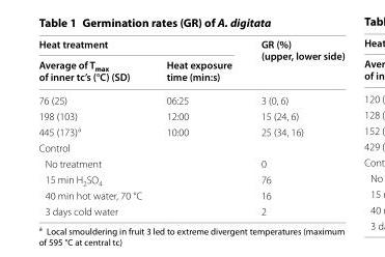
<table><thead><tr><td colspan="2">Heat treatment</td><td rowspan="2">GR (%) (upper, lower side)</td></tr><tr><td>Average of T<sub>max</sub> of inner tc’s (°C) (SD)</td><td>Heat exposure time (min:s)</td></tr></thead><tbody><tr><td>76 (25)</td><td>06:25</td><td>3 (0, 6)</td></tr><tr><td>198 (103)</td><td>12:00</td><td>15 (24, 6)</td></tr><tr><td>445 (173)<sup>a</sup></td><td>10:00</td><td>25 (34, 16)</td></tr><tr><td colspan="3">Control</td></tr><tr><td colspan="2">No treatment</td><td>0</td></tr><tr><td colspan="2">15 min H<sub>2</sub>SO<sub>4</sub></td><td>76</td></tr><tr><td colspan="2">40 min hot water, 70 °C</td><td>16</td></tr><tr><td colspan="2">3 days cold water</td><td>2</td></tr></tbody></table>